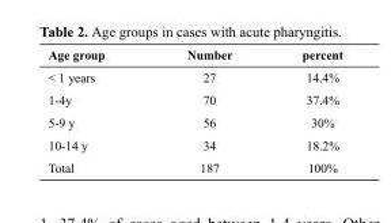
<table><thead><tr><td>Age group</td><td>Number</td><td>percent</td></tr></thead><tbody><tr><td>&lt; 1 years</td><td>27</td><td>14.4%</td></tr><tr><td>1-4y</td><td>70</td><td>37.4%</td></tr><tr><td>5-9 y</td><td>56</td><td>30%</td></tr><tr><td>10-14 y</td><td>34</td><td>18.2%</td></tr><tr><td>Total</td><td>187</td><td>100%</td></tr></tbody></table>